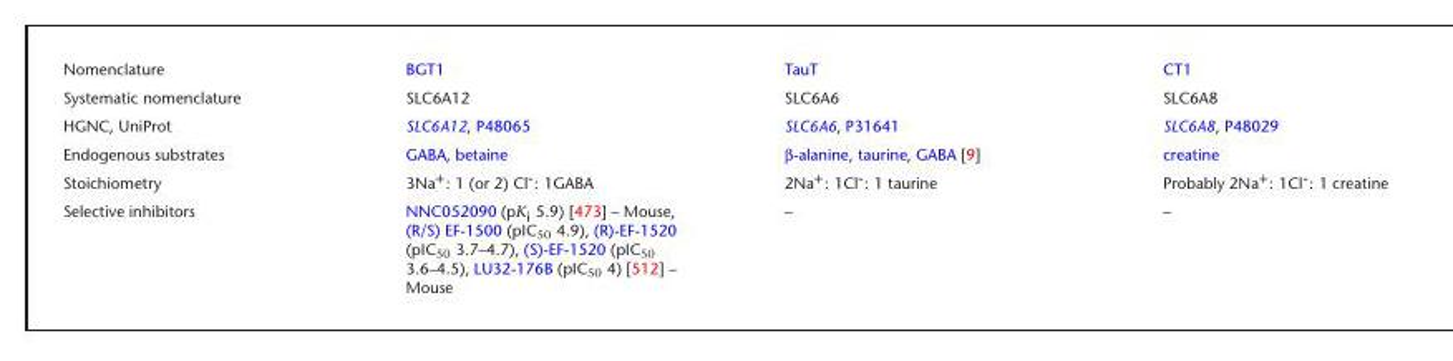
<table><tbody><tr><td>Nomenclature</td><td>BGT1</td><td>TauT</td><td>CT1</td></tr><tr><td>Systematic nomenclature</td><td>SLC6A12</td><td>SLC6A6</td><td>SLC6A8</td></tr><tr><td>HGNC, UniProt</td><td>SLC6A12, P48065</td><td>SLC6A6, P31641</td><td>SLC6A8, P48029</td></tr><tr><td>Endogenous substrates</td><td>GABA, betaine</td><td>β-alanine, taurine, GABA [9]</td><td>creatine</td></tr><tr><td>Stoichiometry</td><td>3Na<sup>+</sup>: 1 (or 2) Cl<sup>-</sup>: 1GABA</td><td>2Na<sup>+</sup>: 1Cl<sup>-</sup>: 1 taurine</td><td>Probably 2Na<sup>+</sup>: 1Cl<sup>-</sup>: 1 creatine</td></tr><tr><td>Selective inhibitors</td><td>NNC052090 (pK<sub>i</sub> 5.9) [473] – Mouse, (R/S) EF-1500 (pIC<sub>50</sub> 4.9), (R)-EF-1520 (pIC<sub>50</sub> 3.7–4.7), (S)-EF-1520 (pIC<sub>50</sub> 3.6–4.5), LU32-176B (pIC<sub>50</sub> 4) [512] – Mouse</td><td>–</td><td>–</td></tr></tbody></table>